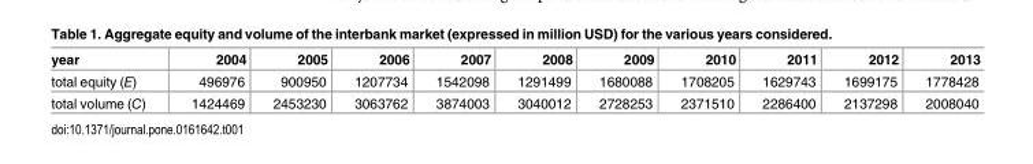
<table><thead><tr><td>year</td><td>2004</td><td>2005</td><td>2006</td><td>2007</td><td>2008</td><td>2009</td><td>2010</td><td>2011</td><td>2012</td><td>2013</td></tr></thead><tbody><tr><td>total equity (E)</td><td>496976</td><td>900950</td><td>1207734</td><td>1542098</td><td>1291499</td><td>1680088</td><td>1708205</td><td>1629743</td><td>1699175</td><td>1778428</td></tr><tr><td>total volume (C)</td><td>1424469</td><td>2453230</td><td>3063762</td><td>3874003</td><td>3040012</td><td>2728253</td><td>2371510</td><td>2286400</td><td>2137298</td><td>2008040</td></tr></tbody></table>